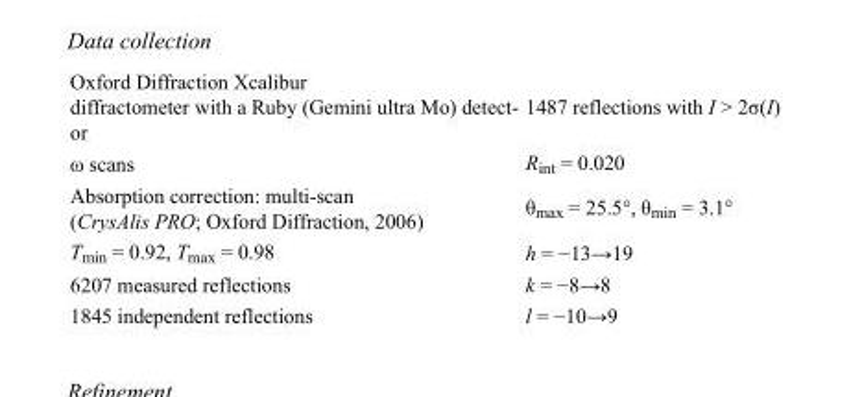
<table><tbody><tr><td>Oxford Diffraction Xcalibur diffractometer with a Ruby (Gemini ultra Mo) detect- or</td><td>1487 reflections with I &gt; 2σ(I)</td></tr><tr><td>ω scans</td><td>R<sub>int</sub> = 0.020</td></tr><tr><td>Absorption correction: multi-scan (CrysAlis PRO; Oxford Diffraction, 2006)</td><td>θ<sub>max</sub> = 25.5°, θ<sub>min</sub> = 3.1°</td></tr><tr><td>T<sub>min</sub> = 0.92, T<sub>max</sub> = 0.98</td><td>h = −13→19</td></tr><tr><td>6207 measured reflections</td><td>k = −8→8</td></tr><tr><td>1845 independent reflections</td><td>l = −10→9</td></tr></tbody></table>